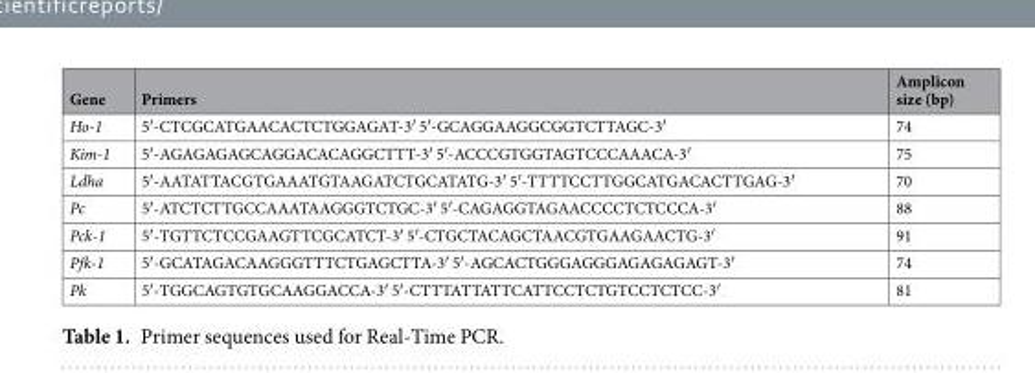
<table><thead><tr><td>Gene</td><td>Primers</td><td>Amplicon size (bp)</td></tr></thead><tbody><tr><td>Ho-1</td><td>5′-CTCGCATGAACACTCTGGAGAT-3′ 5′-GCAGGAAGGCGGTCTTAGC-3′</td><td>74</td></tr><tr><td>Kim-1</td><td>5′-AGAGAGAGCAGGACACAGGCTTT-3′ 5′-ACCCGTGGTAGTCCCAAACA-3′</td><td>75</td></tr><tr><td>Ldha</td><td>5′-AATATTACGTGAAATGTAAGATCTGCATATG-3′ 5′-TTTTCCTTGGCATGACACTTGAG-3′</td><td>70</td></tr><tr><td>Pc</td><td>5′-ATCTCTTGCCAAATAAGGGTCTGC-3′ 5′-CAGAGGTAGAACCCCTCTCCCA-3′</td><td>88</td></tr><tr><td>Pck-1</td><td>5′-TGTTCTCCGAAGTTCGCATCT-3′ 5′-CTGCTACAGCTAACGTGAAGAACTG-3′</td><td>91</td></tr><tr><td>Pfk-1</td><td>5′-GCATAGACAAGGGTTTCTGAGCTTA-3′ 5′-AGCACTGGGAGGGAGAGAGAGT-3′</td><td>74</td></tr><tr><td>Pk</td><td>5′-TGGCAGTGTGCAAGGACCA-3′ 5′-CTTTATTATTCATTCCTCTGTCCTCTCC-3′</td><td>81</td></tr></tbody></table>